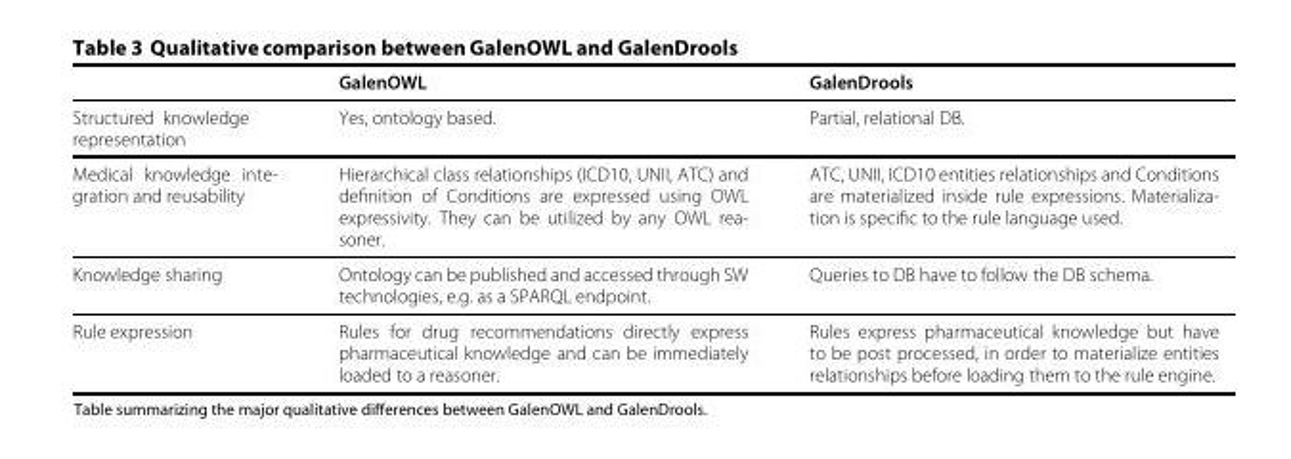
<table><thead><tr><td></td><td>GalenOWL</td><td>GalenDrools</td></tr></thead><tbody><tr><td>Structured knowledge representation</td><td>Yes, ontology based.</td><td>Partial, relational DB.</td></tr><tr><td>Medical knowledge inte- gration and reusability</td><td>Hierarchical class relationships (ICD10, UNII, ATC) and definition of Conditions are expressed using OWL expressivity. They can be utilized by any OWL rea- soner.</td><td>ATC, UNII, ICD10 entities relationships and Conditions are materialized inside rule expressions. Materializa- tion is specific to the rule language used.</td></tr><tr><td>Knowledge sharing</td><td>Ontology can be published and accessed through SW technologies, e.g. as a SPARQL endpoint.</td><td>Queries to DB have to follow the DB schema.</td></tr><tr><td>Rule expression</td><td>Rules for drug recommendations directly express pharmaceutical knowledge and can be immediately loaded to a reasoner.</td><td>Rules express pharmaceutical knowledge but have to be post processed, in order to materialize entities relationships before loading them to the rule engine.</td></tr></tbody></table>